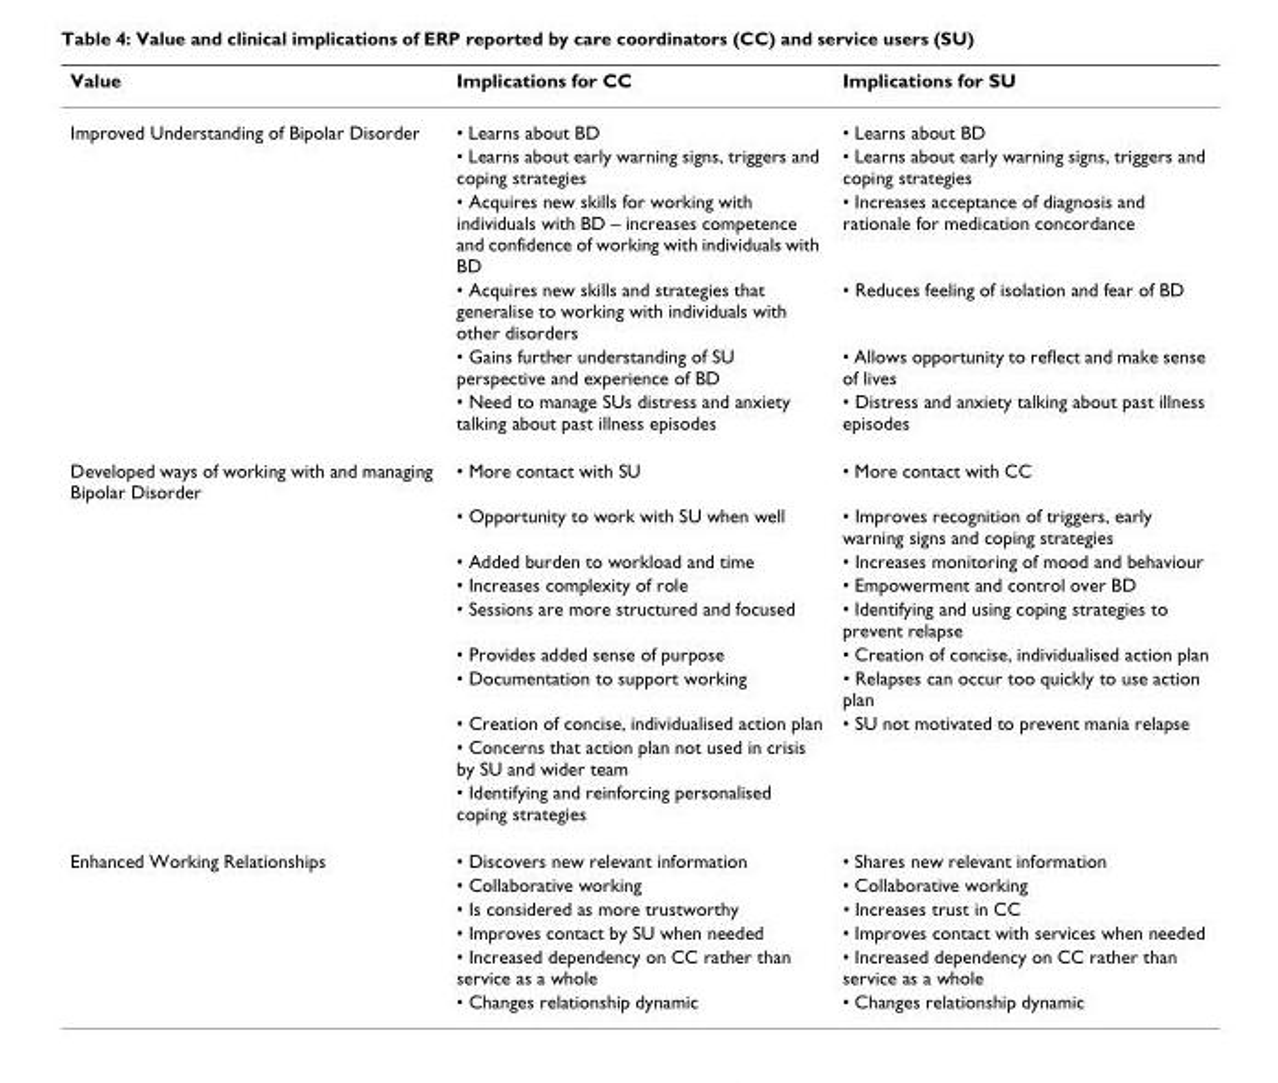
<table><thead><tr><td>Value</td><td>Implications for CC</td><td>Implications for SU</td></tr></thead><tbody><tr><td rowspan="6">Improved Understanding of Bipolar Disorder</td><td>• Learns about BD</td><td>• Learns about BD</td></tr><tr><td>• Learns about early warning signs, triggers and coping strategies</td><td>• Learns about early warning signs, triggers and coping strategies</td></tr><tr><td>• Acquires new skills for working with individuals with BD – increases competence and confidence of working with individuals with BD</td><td>• Increases acceptance of diagnosis and rationale for medication concordance</td></tr><tr><td>• Acquires new skills and strategies that generalise to working with individuals with other disorders</td><td>• Reduces feeling of isolation and fear of BD</td></tr><tr><td>• Gains further understanding of SU perspective and experience of BD</td><td>• Allows opportunity to reflect and make sense of lives</td></tr><tr><td>• Need to manage SUs distress and anxiety talking about past illness episodes</td><td>• Distress and anxiety talking about past illness episodes</td></tr><tr><td rowspan="10">Developed ways of working with and managing Bipolar Disorder</td><td>• More contact with SU</td><td>• More contact with CC</td></tr><tr><td>• Opportunity to work with SU when well</td><td>• Improves recognition of triggers, early warning signs and coping strategies</td></tr><tr><td>• Added burden to workload and time</td><td>• Increases monitoring of mood and behaviour</td></tr><tr><td>• Increases complexity of role</td><td>• Empowerment and control over BD</td></tr><tr><td>• Sessions are more structured and focused</td><td>• Identifying and using coping strategies to prevent relapse</td></tr><tr><td>• Provides added sense of purpose</td><td>• Creation of concise, individualised action plan</td></tr><tr><td>• Documentation to support working</td><td>• Relapses can occur too quickly to use action plan</td></tr><tr><td>• Creation of concise, individualised action plan</td><td>• SU not motivated to prevent mania relapse</td></tr><tr><td>• Concerns that action plan not used in crisis by SU and wider team</td><td></td></tr><tr><td>• Identifying and reinforcing personalised coping strategies</td><td></td></tr><tr><td rowspan="6">Enhanced Working Relationships</td><td>• Discovers new relevant information</td><td>• Shares new relevant information</td></tr><tr><td>• Collaborative working</td><td>• Collaborative working</td></tr><tr><td>• Is considered as more trustworthy</td><td>• Increases trust in CC</td></tr><tr><td>• Improves contact by SU when needed</td><td>• Improves contact with services when needed</td></tr><tr><td>• Increased dependency on CC rather than service as a whole</td><td>• Increased dependency on CC rather than service as a whole</td></tr><tr><td>• Changes relationship dynamic</td><td>• Changes relationship dynamic</td></tr></tbody></table>